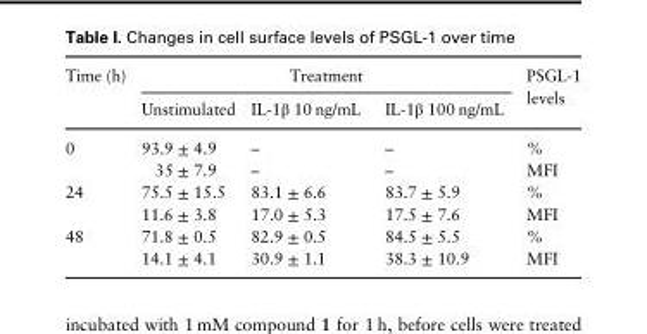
<table><thead><tr><td rowspan="2">Time (h)</td><td colspan="3">Treatment</td><td rowspan="2">PSGL-1 levels</td></tr><tr><td>Unstimulated</td><td>IL-1β 10 ng/mL</td><td>IL-1β 100 ng/mL</td></tr></thead><tbody><tr><td rowspan="2">0</td><td>93.9 ± 4.9</td><td>–</td><td>–</td><td>%</td></tr><tr><td>35 ± 7.9</td><td>–</td><td>–</td><td>MFI</td></tr><tr><td rowspan="2">24</td><td>75.5 ± 15.5</td><td>83.1 ± 6.6</td><td>83.7 ± 5.9</td><td>%</td></tr><tr><td>11.6 ± 3.8</td><td>17.0 ± 5.3</td><td>17.5 ± 7.6</td><td>MFI</td></tr><tr><td rowspan="2">48</td><td>71.8 ± 0.5</td><td>82.9 ± 0.5</td><td>84.5 ± 5.5</td><td>%</td></tr><tr><td>14.1 ± 4.1</td><td>30.9 ± 1.1</td><td>38.3 ± 10.9</td><td>MFI</td></tr></tbody></table>